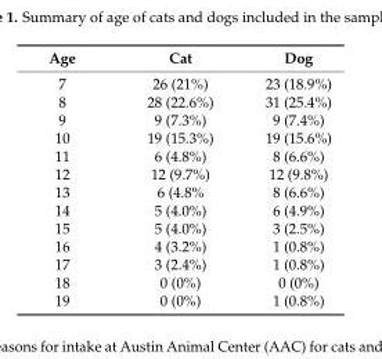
<table><thead><tr><td>Age</td><td>Cat</td><td>Dog</td></tr></thead><tbody><tr><td>7</td><td>26 (21%)</td><td>23 (18.9%)</td></tr><tr><td>8</td><td>28 (22.6%)</td><td>31 (25.4%)</td></tr><tr><td>9</td><td>9 (7.3%)</td><td>9 (7.4%)</td></tr><tr><td>10</td><td>19 (15.3%)</td><td>19 (15.6%)</td></tr><tr><td>11</td><td>6 (4.8%)</td><td>8 (6.6%)</td></tr><tr><td>12</td><td>12 (9.7%)</td><td>12 (9.8%)</td></tr><tr><td>13</td><td>6 (4.8%</td><td>8 (6.6%)</td></tr><tr><td>14</td><td>5 (4.0%)</td><td>6 (4.9%)</td></tr><tr><td>15</td><td>5 (4.0%)</td><td>3 (2.5%)</td></tr><tr><td>16</td><td>4 (3.2%)</td><td>1 (0.8%)</td></tr><tr><td>17</td><td>3 (2.4%)</td><td>1 (0.8%)</td></tr><tr><td>18</td><td>0 (0%)</td><td>0 (0%)</td></tr><tr><td>19</td><td>0 (0%)</td><td>1 (0.8%)</td></tr></tbody></table>